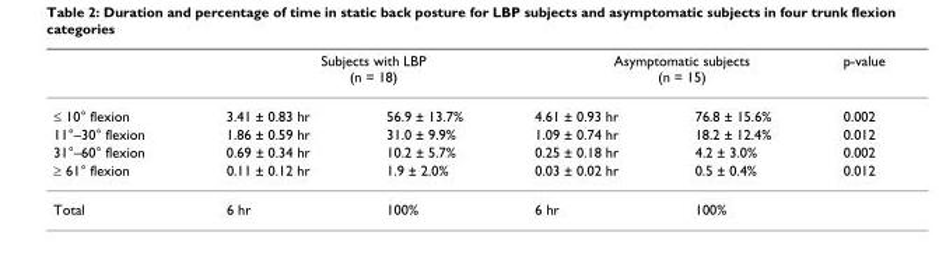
<table><thead><tr><td rowspan="2">≤ 10° flexion</td><td colspan="2">Subjects with LBP (n = 18)</td><td colspan="2">Asymptomatic subjects (n = 15)</td><td rowspan="2">p-value 0.002</td></tr><tr><td>3.41 ± 0.83 hr</td><td>56.9 ± 13.7%</td><td>4.61 ± 0.93 hr</td><td>76.8 ± 15.6%</td></tr></thead><tbody><tr><td>11°–30° flexion</td><td>1.86 ± 0.59 hr</td><td>31.0 ± 9.9%</td><td>1.09 ± 0.74 hr</td><td>18.2 ± 12.4%</td><td>0.012</td></tr><tr><td>31°–60° flexion</td><td>0.69 ± 0.34 hr</td><td>10.2 ± 5.7%</td><td>0.25 ± 0.18 hr</td><td>4.2 ± 3.0%</td><td>0.002</td></tr><tr><td>≥ 61° flexion</td><td>0.11 ± 0.12 hr</td><td>1.9 ± 2.0%</td><td>0.03 ± 0.02 hr</td><td>0.5 ± 0.4%</td><td>0.012</td></tr><tr><td>Total</td><td>6 hr</td><td>100%</td><td>6 hr</td><td>100%</td><td></td></tr></tbody></table>